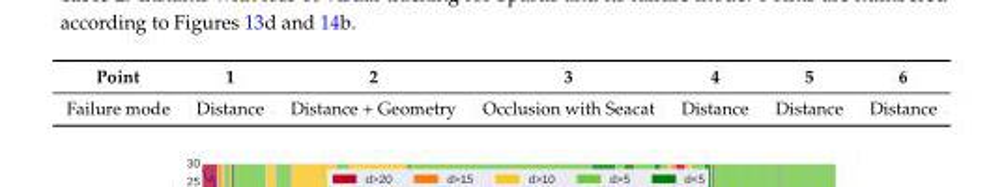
<table><thead><tr><td>Point</td><td>1</td><td>2</td><td>3</td><td>4</td><td>5</td><td>6</td></tr></thead><tbody><tr><td>Failure mode</td><td>Distance</td><td>Distance + Geometry</td><td>Occlusion with Seacat</td><td>Distance</td><td>Distance</td><td>Distance</td></tr></tbody></table>